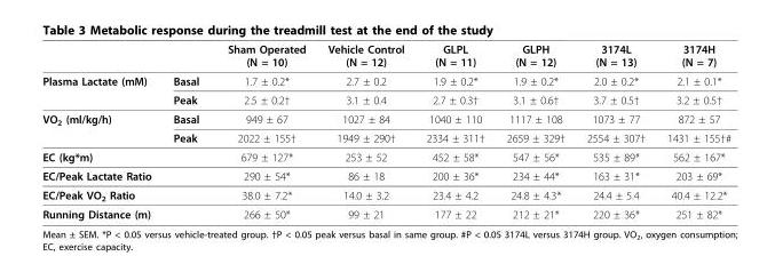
<table><thead><tr><td></td><td></td><td>Sham Operated (N = 10)</td><td>Vehicle Control (N = 12)</td><td>GLPL (N = 11)</td><td>GLPH (N = 12)</td><td>3174L (N = 13)</td><td>3174H (N = 7)</td></tr></thead><tbody><tr><td rowspan="2">Plasma Lactate (mM)</td><td>Basal</td><td>1.7 ± 0.2*</td><td>2.7 ± 0.2</td><td>1.9 ± 0.2*</td><td>1.9 ± 0.2*</td><td>2.0 ± 0.2*</td><td>2.1 ± 0.1*</td></tr><tr><td>Peak</td><td>2.5 ± 0.2†</td><td>3.1 ± 0.4</td><td>2.7 ± 0.3†</td><td>3.1 ± 0.6†</td><td>3.7 ± 0.5†</td><td>3.2 ± 0.5†</td></tr><tr><td rowspan="2">VO<sub>2</sub> (ml/kg/h)</td><td>Basal</td><td>949 ± 67</td><td>1027 ± 84</td><td>1040 ± 110</td><td>1117 ± 108</td><td>1073 ± 77</td><td>872 ± 57</td></tr><tr><td>Peak</td><td>2022 ± 155†</td><td>1949 ± 290†</td><td>2334 ± 311†</td><td>2659 ± 329†</td><td>2554 ± 307†</td><td>1431 ± 155†#</td></tr><tr><td>EC (kg*m)</td><td></td><td>679 ± 127*</td><td>253 ± 52</td><td>452 ± 58*</td><td>547 ± 56*</td><td>535 ± 89*</td><td>562 ± 167*</td></tr><tr><td>EC/Peak Lactate Ratio</td><td></td><td>290 ± 54*</td><td>86 ± 18</td><td>200 ± 36*</td><td>234 ± 44*</td><td>163 ± 31*</td><td>203 ± 69*</td></tr><tr><td>EC/Peak VO<sub>2</sub> Ratio</td><td></td><td>38.0 ± 7.2*</td><td>14.0 ± 3.2</td><td>23.4 ± 4.2</td><td>24.8 ± 4.3*</td><td>24.4 ± 5.4</td><td>40.4 ± 12.2*</td></tr><tr><td>Running Distance (m)</td><td></td><td>266 ± 50*</td><td>99 ± 21</td><td>177 ± 22</td><td>212 ± 21*</td><td>220 ± 36*</td><td>251 ± 82*</td></tr></tbody></table>